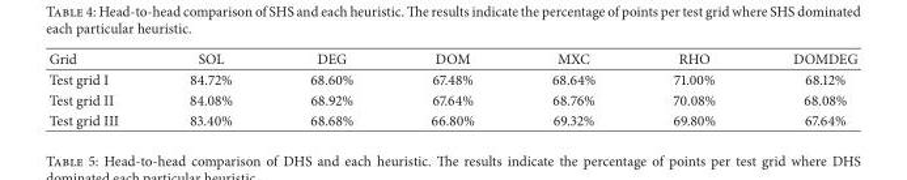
<table><thead><tr><td>Grid</td><td>SOL</td><td>DEG</td><td>DOM</td><td>MXC</td><td>RHO</td><td>DOMDEG</td></tr></thead><tbody><tr><td>Test grid I</td><td>84.72%</td><td>68.60%</td><td>67.48%</td><td>68.64%</td><td>71.00%</td><td>68.12%</td></tr><tr><td>Test grid II</td><td>84.08%</td><td>68.92%</td><td>67.64%</td><td>68.76%</td><td>70.08%</td><td>68.08%</td></tr><tr><td>Test grid III</td><td>83.40%</td><td>68.68%</td><td>66.80%</td><td>69.32%</td><td>69.80%</td><td>67.64%</td></tr></tbody></table>